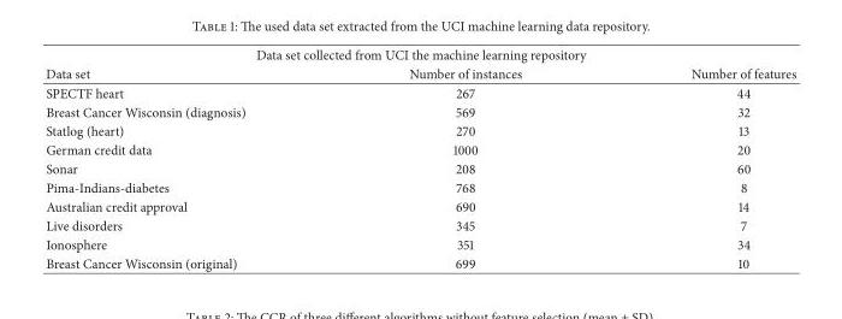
<table><thead><tr><td colspan="3">Data set collected from UCI the machine learning repository</td></tr><tr><td>Data set</td><td>Number of instances</td><td>Number of features</td></tr></thead><tbody><tr><td>SPECTF heart</td><td>267</td><td>44</td></tr><tr><td>Breast Cancer Wisconsin (diagnosis)</td><td>569</td><td>32</td></tr><tr><td>Statlog (heart)</td><td>270</td><td>13</td></tr><tr><td>German credit data</td><td>1000</td><td>20</td></tr><tr><td>Sonar</td><td>208</td><td>60</td></tr><tr><td>Pima-Indians-diabetes</td><td>768</td><td>8</td></tr><tr><td>Australian credit approval</td><td>690</td><td>14</td></tr><tr><td>Live disorders</td><td>345</td><td>7</td></tr><tr><td>Ionosphere</td><td>351</td><td>34</td></tr><tr><td>Breast Cancer Wisconsin (original)</td><td>699</td><td>10</td></tr></tbody></table>